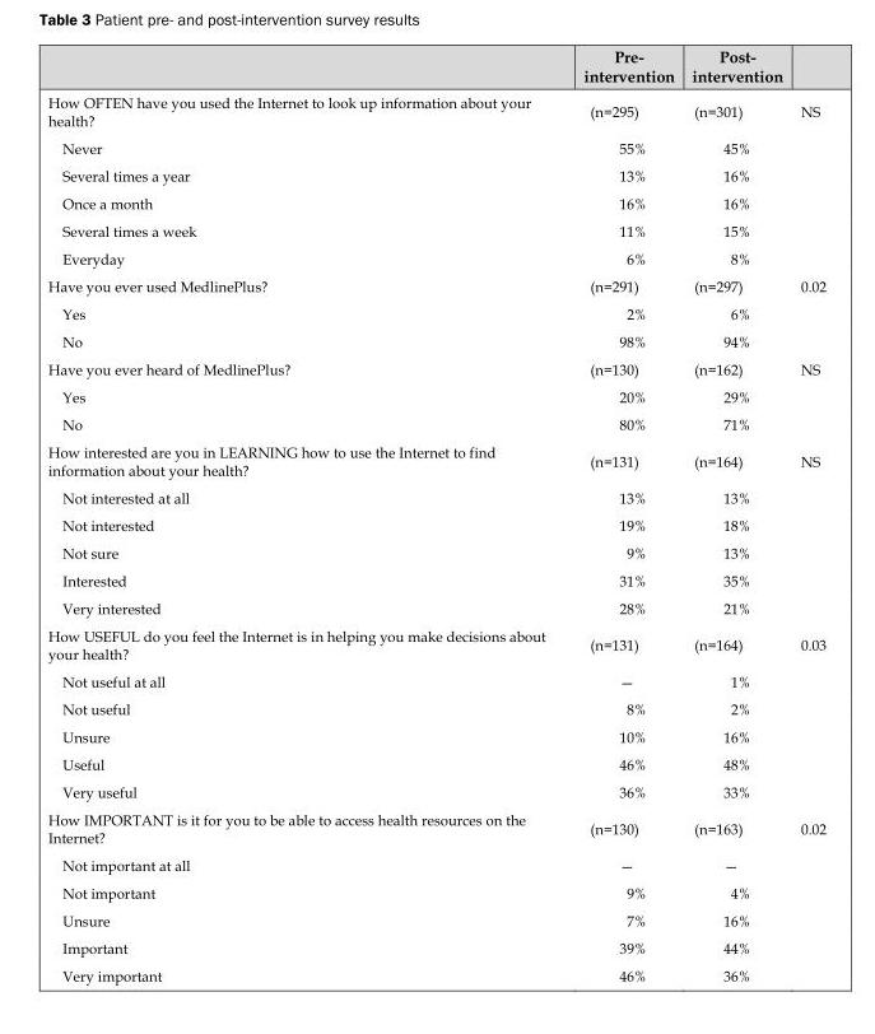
<table><thead><tr><td></td><td>Pre- intervention</td><td>Post- intervention</td><td></td></tr></thead><tbody><tr><td>How OFTEN have you used the Internet to look up information about your health?</td><td>(n=295)</td><td>(n=301)</td><td>NS</td></tr><tr><td>Never</td><td>55%</td><td>45%</td><td></td></tr><tr><td>Several times a year</td><td>13%</td><td>16%</td><td></td></tr><tr><td>Once a month</td><td>16%</td><td>16%</td><td></td></tr><tr><td>Several times a week</td><td>11%</td><td>15%</td><td></td></tr><tr><td>Everyday</td><td>6%</td><td>8%</td><td></td></tr><tr><td>Have you ever used MedlinePlus?</td><td>(n=291)</td><td>(n=297)</td><td>0.02</td></tr><tr><td>Yes</td><td>2%</td><td>6%</td><td></td></tr><tr><td>No</td><td>98%</td><td>94%</td><td></td></tr><tr><td>Have you ever heard of MedlinePlus?</td><td>(n=130)</td><td>(n=162)</td><td>NS</td></tr><tr><td>Yes</td><td>20%</td><td>29%</td><td></td></tr><tr><td>No</td><td>80%</td><td>71%</td><td></td></tr><tr><td>How interested are you in LEARNING how to use the Internet to find information about your health?</td><td>(n=131)</td><td>(n=164)</td><td>NS</td></tr><tr><td>Not interested at all</td><td>13%</td><td>13%</td><td></td></tr><tr><td>Not interested</td><td>19%</td><td>18%</td><td></td></tr><tr><td>Not sure</td><td>9%</td><td>13%</td><td></td></tr><tr><td>Interested</td><td>31%</td><td>35%</td><td></td></tr><tr><td>Very interested</td><td>28%</td><td>21%</td><td></td></tr><tr><td>How USEFUL do you feel the Internet is in helping you make decisions about your health?</td><td>(n=131)</td><td>(n=164)</td><td>0.03</td></tr><tr><td>Not useful at all</td><td>—</td><td>1%</td><td></td></tr><tr><td>Not useful</td><td>8%</td><td>2%</td><td></td></tr><tr><td>Unsure</td><td>10%</td><td>16%</td><td></td></tr><tr><td>Useful</td><td>46%</td><td>48%</td><td></td></tr><tr><td>Very useful</td><td>36%</td><td>33%</td><td></td></tr><tr><td>How IMPORTANT is it for you to be able to access health resources on the Internet?</td><td>(n=130)</td><td>(n=163)</td><td>0.02</td></tr><tr><td>Not important at all</td><td>—</td><td>—</td><td></td></tr><tr><td>Not important</td><td>9%</td><td>4%</td><td></td></tr><tr><td>Unsure</td><td>7%</td><td>16%</td><td></td></tr><tr><td>Important</td><td>39%</td><td>44%</td><td></td></tr><tr><td>Very important</td><td>46%</td><td>36%</td><td></td></tr></tbody></table>